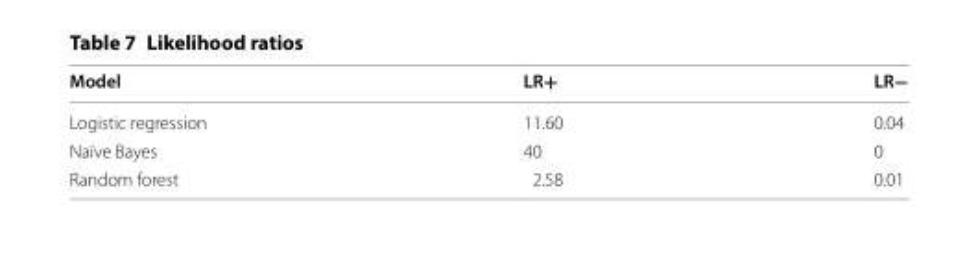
<table><thead><tr><td>Model</td><td>LR+</td><td>LR−</td></tr></thead><tbody><tr><td>Logistic regression</td><td>11.60</td><td>0.04</td></tr><tr><td>Naïve Bayes</td><td>40</td><td>0</td></tr><tr><td>Random forest</td><td>2.58</td><td>0.01</td></tr></tbody></table>